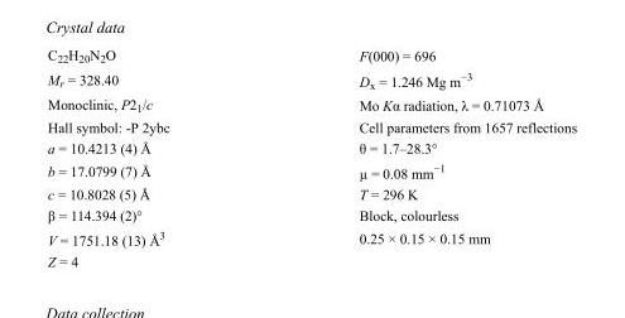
<table><tbody><tr><td>C<sub>22</sub>H<sub>20</sub>N<sub>2</sub>O</td><td>F(000) = 696</td></tr><tr><td>M<sub>r</sub> = 328.40</td><td>D<sub>x</sub> = 1.246 Mg m<sup>−3</sup></td></tr><tr><td>Monoclinic, P2<sub>1</sub>/c</td><td>Mo Kα radiation, λ = 0.71073 Å</td></tr><tr><td>Hall symbol: -P 2ybc</td><td>Cell parameters from 1657 reflections</td></tr><tr><td>a = 10.4213 (4) Å</td><td>θ = 1.7–28.3°</td></tr><tr><td>b = 17.0799 (7) Å</td><td>µ = 0.08 mm<sup>−1</sup></td></tr><tr><td>c = 10.8028 (5) Å</td><td>T = 296 K</td></tr><tr><td>β = 114.394 (2)°</td><td>Block, colourless</td></tr><tr><td>V = 1751.18 (13) Å<sup>3</sup></td><td>0.25 × 0.15 × 0.15 mm</td></tr><tr><td>Z = 4</td><td></td></tr></tbody></table>